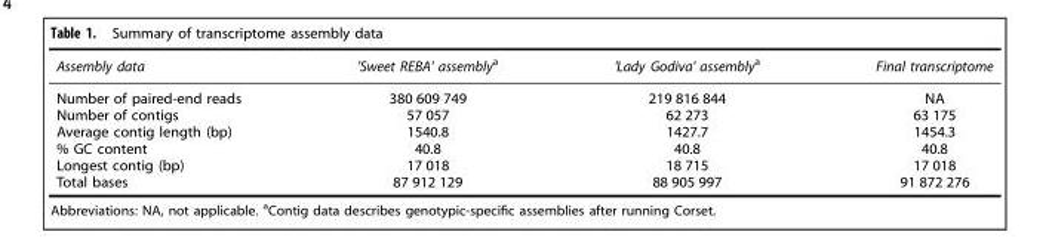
<table><thead><tr><td>Assembly data</td><td>&#x27;Sweet REBA&#x27; assembly<sup>a</sup></td><td>&#x27;Lady Godiva&#x27; assembly<sup>a</sup></td><td>Final transcriptome</td></tr></thead><tbody><tr><td>Number of paired-end reads</td><td>380 609 749</td><td>219 816 844</td><td>NA</td></tr><tr><td>Number of contigs</td><td>57 057</td><td>62 273</td><td>63 175</td></tr><tr><td>Average contig length (bp)</td><td>1540.8</td><td>1427.7</td><td>1454.3</td></tr><tr><td>% GC content</td><td>40.8</td><td>40.8</td><td>40.8</td></tr><tr><td>Longest contig (bp)</td><td>17 018</td><td>18 715</td><td>17 018</td></tr><tr><td>Total bases</td><td>87 912 129</td><td>88 905 997</td><td>91 872 276</td></tr></tbody></table>